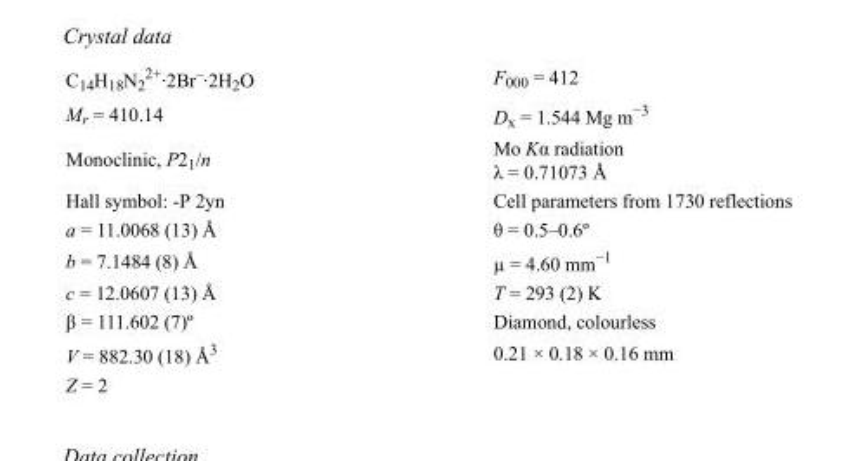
<table><tbody><tr><td>C<sub>14</sub>H<sub>18</sub>N<sub>2</sub> <sup>2+</sup>·2Br<sup>–</sup>·2H<sub>2</sub>O</td><td>F<sub>000</sub> = 412</td></tr><tr><td>M<sub>r</sub> = 410.14</td><td>D<sub>x</sub> = 1.544 Mg m<sup>−3</sup></td></tr><tr><td>Monoclinic, P2<sub>1</sub>/n</td><td>Mo Kα radiation λ = 0.71073 Å</td></tr><tr><td>Hall symbol: -P 2yn</td><td>Cell parameters from 1730 reflections</td></tr><tr><td>a = 11.0068 (13) Å</td><td>θ = 0.5–0.6º</td></tr><tr><td>b = 7.1484 (8) Å</td><td>µ = 4.60 mm<sup>−1</sup></td></tr><tr><td>c = 12.0607 (13) Å</td><td>T = 293 (2) K</td></tr><tr><td>β = 111.602 (7)º</td><td>Diamond, colourless</td></tr><tr><td>V = 882.30 (18) Å<sup>3</sup></td><td>0.21 × 0.18 × 0.16 mm</td></tr><tr><td>Z = 2</td><td></td></tr></tbody></table>